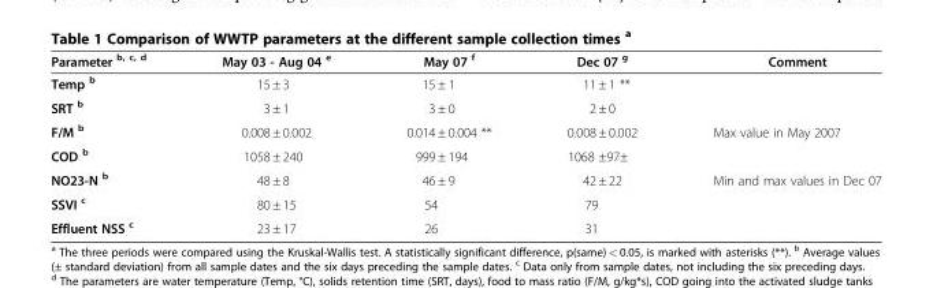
<table><thead><tr><td>Parameter <sup>b, c, d</sup></td><td>May 03 - Aug 04 <sup>e</sup></td><td>May 07 <sup>f</sup></td><td>Dec 07 <sup>g</sup></td><td>Comment</td></tr></thead><tbody><tr><td>Temp <sup>b</sup></td><td>15 ± 3</td><td>15 ± 1</td><td>11 ± 1 **</td><td></td></tr><tr><td>SRT <sup>b</sup></td><td>3 ± 1</td><td>3 ± 0</td><td>2 ± 0</td><td></td></tr><tr><td>F/M <sup>b</sup></td><td>0.008 ± 0.002</td><td>0.014 ± 0.004 **</td><td>0.008 ± 0.002</td><td>Max value in May 2007</td></tr><tr><td>COD <sup>b</sup></td><td>1058 ± 240</td><td>999 ± 194</td><td>1068 ±97±</td><td></td></tr><tr><td>NO23-N <sup>b</sup></td><td>48 ± 8</td><td>46 ± 9</td><td>42 ± 22</td><td>Min and max values in Dec 07</td></tr><tr><td>SSVI <sup>c</sup></td><td>80 ± 15</td><td>54</td><td>79</td><td></td></tr><tr><td>Effluent NSS <sup>c</sup></td><td>23 ± 17</td><td>26</td><td>31</td><td></td></tr></tbody></table>